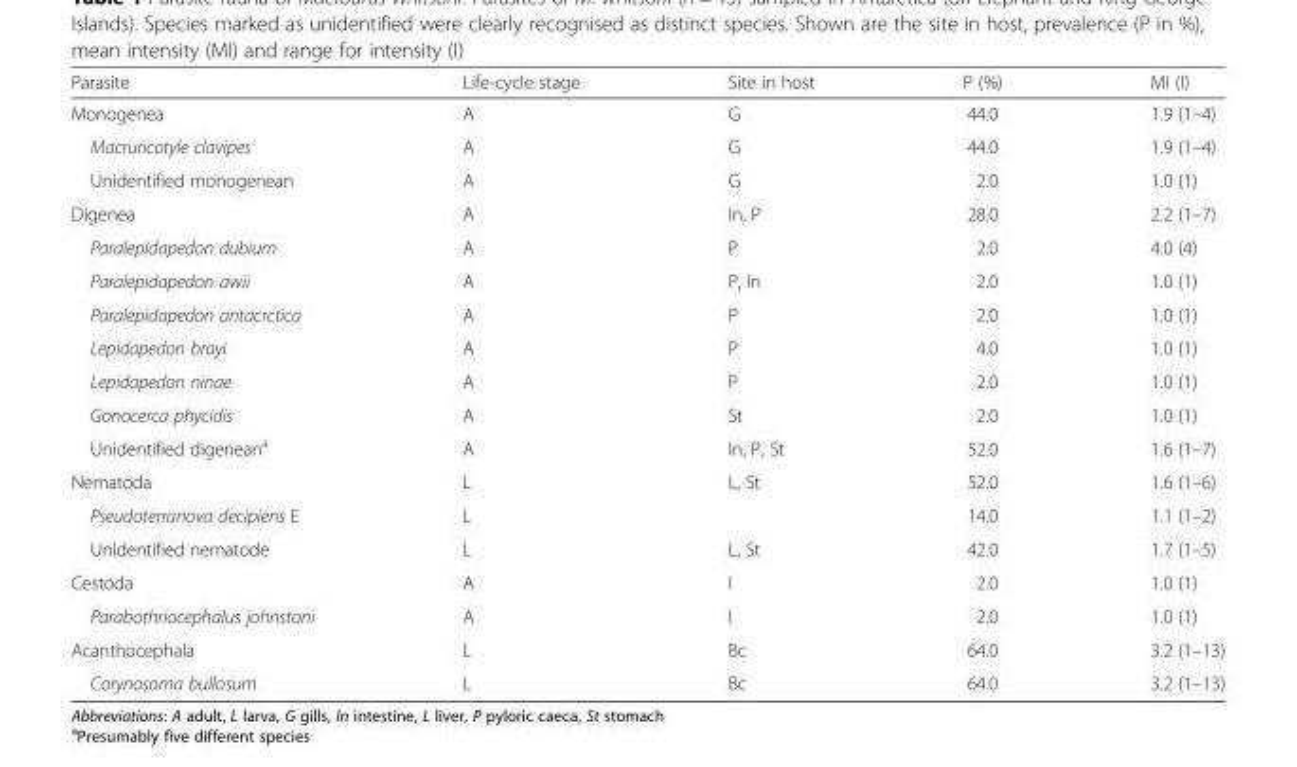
<table><thead><tr><td>Parasite</td><td>Life-cycle stage</td><td>Site in host</td><td>P (%)</td><td>MI (I)</td></tr></thead><tbody><tr><td>Monogenea</td><td>A</td><td>G</td><td>44.0</td><td>1.9 (1–4)</td></tr><tr><td>Macruricotyle clavipes</td><td>A</td><td>G</td><td>44.0</td><td>1.9 (1–4)</td></tr><tr><td>Unidentified monogenean</td><td>A</td><td>G</td><td>2.0</td><td>1.0 (1)</td></tr><tr><td>Digenea</td><td>A</td><td>In, P</td><td>28.0</td><td>2.2 (1–7)</td></tr><tr><td>Paralepidapedon dubium</td><td>A</td><td>P</td><td>2.0</td><td>4.0 (4)</td></tr><tr><td>Paralepidapedon awii</td><td>A</td><td>P, In</td><td>2.0</td><td>1.0 (1)</td></tr><tr><td>Paralepidapedon antacrctica</td><td>A</td><td>P</td><td>2.0</td><td>1.0 (1)</td></tr><tr><td>Lepidapedon brayi</td><td>A</td><td>P</td><td>4.0</td><td>1.0 (1)</td></tr><tr><td>Lepidapedon ninae</td><td>A</td><td>P</td><td>2.0</td><td>1.0 (1)</td></tr><tr><td>Gonocerca phycidis</td><td>A</td><td>St</td><td>2.0</td><td>1.0 (1)</td></tr><tr><td>Unidentified digenean<sup>a</sup></td><td>A</td><td>In, P, St</td><td>52.0</td><td>1.6 (1–7)</td></tr><tr><td>Nematoda</td><td>L</td><td>L, St</td><td>52.0</td><td>1.6 (1–6)</td></tr><tr><td>Pseudoterranova decipiens E</td><td>L</td><td></td><td>14.0</td><td>1.1 (1–2)</td></tr><tr><td>Unidentified nematode</td><td>L</td><td>L, St</td><td>42.0</td><td>1.7 (1–5)</td></tr><tr><td>Cestoda</td><td>A</td><td>I</td><td>2.0</td><td>1.0 (1)</td></tr><tr><td>Parabothriocephalus johnstoni</td><td>A</td><td>I</td><td>2.0</td><td>1.0 (1)</td></tr><tr><td>Acanthocephala</td><td>L</td><td>Bc</td><td>64.0</td><td>3.2 (1–13)</td></tr><tr><td>Corynosoma bullosum</td><td>L</td><td>Bc</td><td>64.0</td><td>3.2 (1–13)</td></tr></tbody></table>